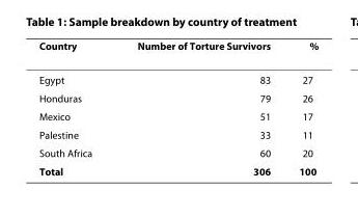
<table><thead><tr><td>Country</td><td>Number of Torture Survivors</td><td>%</td></tr></thead><tbody><tr><td>Egypt</td><td>83</td><td>27</td></tr><tr><td>Honduras</td><td>79</td><td>26</td></tr><tr><td>Mexico</td><td>51</td><td>17</td></tr><tr><td>Palestine</td><td>33</td><td>11</td></tr><tr><td>South Africa</td><td>60</td><td>20</td></tr><tr><td>Total</td><td>306</td><td>100</td></tr></tbody></table>